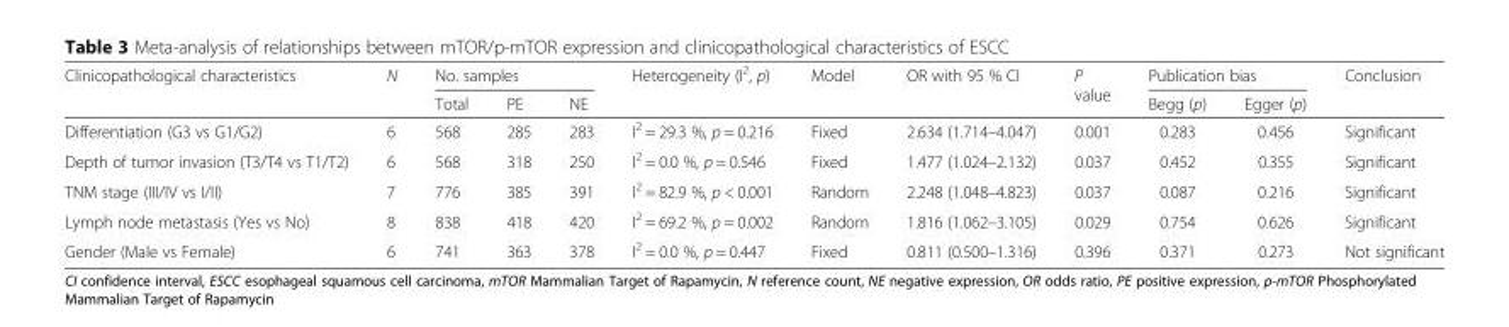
<table><thead><tr><td rowspan="2">Clinicopathological characteristics</td><td rowspan="2">N</td><td colspan="3">No. samples</td><td rowspan="2">Heterogeneity (I<sup>2</sup>, p)</td><td rowspan="2">Model</td><td rowspan="2">OR with 95 % CI</td><td rowspan="2">P value</td><td colspan="2">Publication bias</td><td rowspan="2">Conclusion</td></tr><tr><td>Total</td><td>PE</td><td>NE</td><td>Begg (p)</td><td>Egger (p)</td></tr></thead><tbody><tr><td>Differentiation (G3 vs G1/G2)</td><td>6</td><td>568</td><td>285</td><td>283</td><td>I<sup>2</sup> = 29.3 %, p = 0.216</td><td>Fixed</td><td>2.634 (1.714–4.047)</td><td>0.001</td><td>0.283</td><td>0.456</td><td>Significant</td></tr><tr><td>Depth of tumor invasion (T3/T4 vs T1/T2)</td><td>6</td><td>568</td><td>318</td><td>250</td><td>I<sup>2</sup> = 0.0 %, p = 0.546</td><td>Fixed</td><td>1.477 (1.024–2.132)</td><td>0.037</td><td>0.452</td><td>0.355</td><td>Significant</td></tr><tr><td>TNM stage (III/IV vs I/II)</td><td>7</td><td>776</td><td>385</td><td>391</td><td>I<sup>2</sup> = 82.9 %, p &lt; 0.001</td><td>Random</td><td>2.248 (1.048–4.823)</td><td>0.037</td><td>0.087</td><td>0.216</td><td>Significant</td></tr><tr><td>Lymph node metastasis (Yes vs No)</td><td>8</td><td>838</td><td>418</td><td>420</td><td>I<sup>2</sup> = 69.2 %, p = 0.002</td><td>Random</td><td>1.816 (1.062–3.105)</td><td>0.029</td><td>0.754</td><td>0.626</td><td>Significant</td></tr><tr><td>Gender (Male vs Female)</td><td>6</td><td>741</td><td>363</td><td>378</td><td>I<sup>2</sup> = 0.0 %, p = 0.447</td><td>Fixed</td><td>0.811 (0.500–1.316)</td><td>0.396</td><td>0.371</td><td>0.273</td><td>Not significant</td></tr></tbody></table>